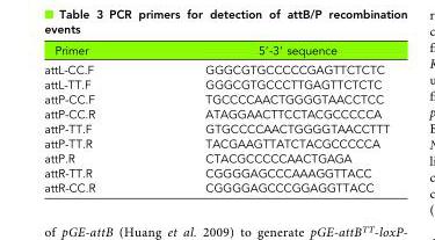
<table><thead><tr><td>Primer</td><td>5′-3′ sequence</td></tr></thead><tbody><tr><td>attL-CC.F</td><td>GGGCGTGCCCCCGAGTTCTCTC</td></tr><tr><td>attL-TT.F</td><td>GGGCGTGCCCTTGAGTTCTCTC</td></tr><tr><td>attP-CC.F</td><td>TGCCCCAACTGGGGTAACCTCC</td></tr><tr><td>attP-CC.R</td><td>ATAGGAACTTCCTACGCCCCCA</td></tr><tr><td>attP-TT.F</td><td>GTGCCCCAACTGGGGTAACCTTT</td></tr><tr><td>attP-TT.R</td><td>TACGAAGTTATCTACGCCCCCA</td></tr><tr><td>attP.R</td><td>CTACGCCCCCAACTGAGA</td></tr><tr><td>attR-TT.R</td><td>CGGGGAGCCCAAAGGTTACC</td></tr><tr><td>attR-CC.R</td><td>CGGGGAGCCCGGAGGTTACC</td></tr></tbody></table>